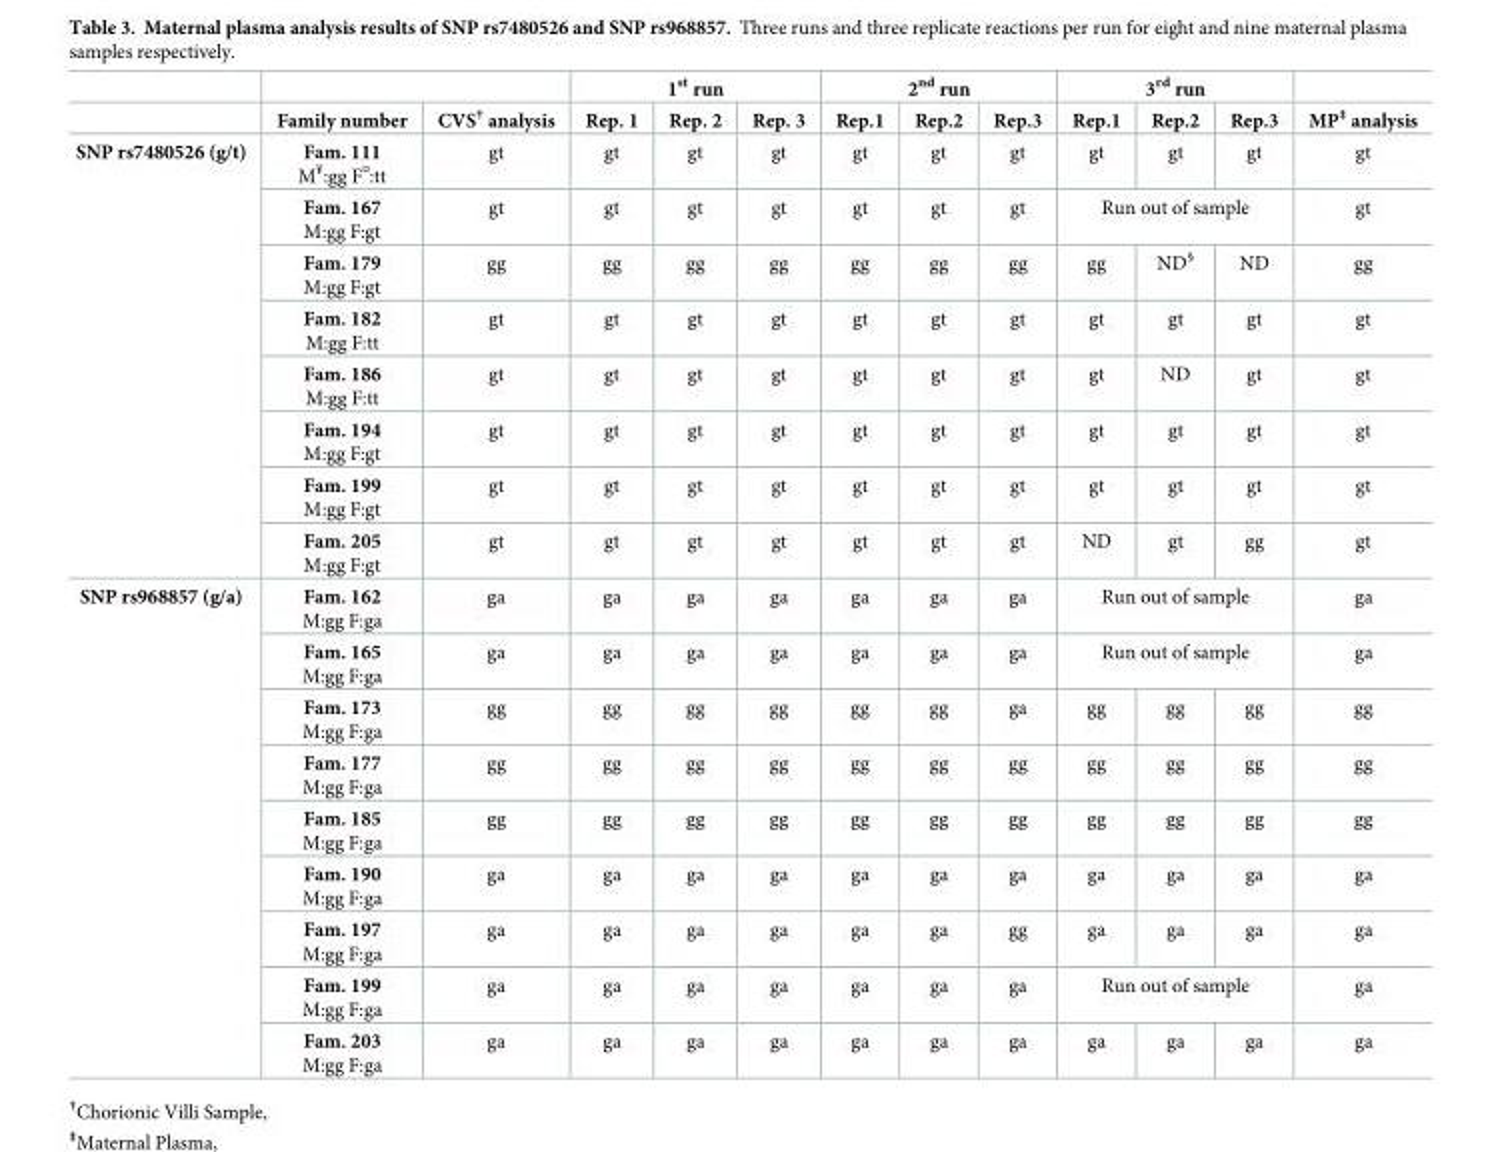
<table><thead><tr><td rowspan="2"></td><td rowspan="2">Family number</td><td rowspan="2">CVS<sup>†</sup> analysis</td><td colspan="3">1<sup>st</sup> run</td><td colspan="3">2<sup>nd</sup> run</td><td colspan="3">3<sup>rd</sup> run</td><td rowspan="2">MP<sup>‡</sup> analysis</td></tr><tr><td>Rep. 1</td><td>Rep. 2</td><td>Rep. 3</td><td>Rep.1</td><td>Rep.2</td><td>Rep.3</td><td>Rep.1</td><td>Rep.2</td><td>Rep.3</td></tr></thead><tbody><tr><td rowspan="8">SNP rs7480526 (g/t)</td><td>Fam. 111 M<sup>¥</sup>:gg F<sup>¤</sup>:tt</td><td>gt</td><td>gt</td><td>gt</td><td>gt</td><td>gt</td><td>gt</td><td>gt</td><td>gt</td><td>gt</td><td>gt</td><td>gt</td></tr><tr><td>Fam. 167 M:gg F:gt</td><td>gt</td><td>gt</td><td>gt</td><td>gt</td><td>gt</td><td>gt</td><td>gt</td><td colspan="3">Run out of sample</td><td>gt</td></tr><tr><td>Fam. 179 M:gg F:gt</td><td>gg</td><td>gg</td><td>gg</td><td>gg</td><td>gg</td><td>gg</td><td>gg</td><td>gg</td><td>ND<sup>§</sup></td><td>ND</td><td>gg</td></tr><tr><td>Fam. 182 M:gg F:tt</td><td>gt</td><td>gt</td><td>gt</td><td>gt</td><td>gt</td><td>gt</td><td>gt</td><td>gt</td><td>gt</td><td>gt</td><td>gt</td></tr><tr><td>Fam. 186 M:gg F:tt</td><td>gt</td><td>gt</td><td>gt</td><td>gt</td><td>gt</td><td>gt</td><td>gt</td><td>gt</td><td>ND</td><td>gt</td><td>gt</td></tr><tr><td>Fam. 194 M:gg F:gt</td><td>gt</td><td>gt</td><td>gt</td><td>gt</td><td>gt</td><td>gt</td><td>gt</td><td>gt</td><td>gt</td><td>gt</td><td>gt</td></tr><tr><td>Fam. 199 M:gg F:gt</td><td>gt</td><td>gt</td><td>gt</td><td>gt</td><td>gt</td><td>gt</td><td>gt</td><td>gt</td><td>gt</td><td>gt</td><td>gt</td></tr><tr><td>Fam. 205 M:gg F:gt</td><td>gt</td><td>gt</td><td>gt</td><td>gt</td><td>gt</td><td>gt</td><td>gt</td><td>ND</td><td>gt</td><td>gg</td><td>gt</td></tr><tr><td rowspan="9">SNP rs968857 (g/a)</td><td>Fam. 162 M:gg F:ga</td><td>ga</td><td>ga</td><td>ga</td><td>ga</td><td>ga</td><td>ga</td><td>ga</td><td colspan="3">Run out of sample</td><td>ga</td></tr><tr><td>Fam. 165 M:gg F:ga</td><td>ga</td><td>ga</td><td>ga</td><td>ga</td><td>ga</td><td>ga</td><td>ga</td><td colspan="3">Run out of sample</td><td>ga</td></tr><tr><td>Fam. 173 M:gg F:ga</td><td>gg</td><td>gg</td><td>gg</td><td>gg</td><td>gg</td><td>gg</td><td>ga</td><td>gg</td><td>gg</td><td>gg</td><td>gg</td></tr><tr><td>Fam. 177 M:gg F:ga</td><td>gg</td><td>gg</td><td>gg</td><td>gg</td><td>gg</td><td>gg</td><td>gg</td><td>gg</td><td>gg</td><td>gg</td><td>gg</td></tr><tr><td>Fam. 185 M:gg F:ga</td><td>gg</td><td>gg</td><td>gg</td><td>gg</td><td>gg</td><td>gg</td><td>gg</td><td>gg</td><td>gg</td><td>gg</td><td>gg</td></tr><tr><td>Fam. 190 M:gg F:ga</td><td>ga</td><td>ga</td><td>ga</td><td>ga</td><td>ga</td><td>ga</td><td>ga</td><td>ga</td><td>ga</td><td>ga</td><td>ga</td></tr><tr><td>Fam. 197 M:gg F:ga</td><td>ga</td><td>ga</td><td>ga</td><td>ga</td><td>ga</td><td>ga</td><td>gg</td><td>ga</td><td>ga</td><td>ga</td><td>ga</td></tr><tr><td>Fam. 199 M:gg F:ga</td><td>ga</td><td>ga</td><td>ga</td><td>ga</td><td>ga</td><td>ga</td><td>ga</td><td colspan="3">Run out of sample</td><td>ga</td></tr><tr><td>Fam. 203 M:gg F:ga</td><td>ga</td><td>ga</td><td>ga</td><td>ga</td><td>ga</td><td>ga</td><td>ga</td><td>ga</td><td>ga</td><td>ga</td><td>ga</td></tr></tbody></table>